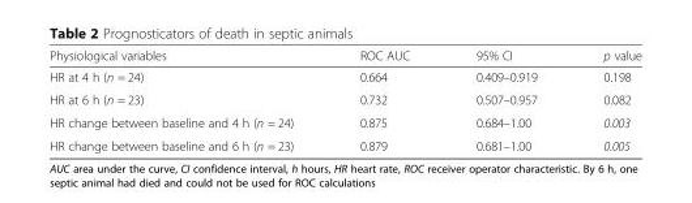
<table><thead><tr><td>Physiological variables</td><td>ROC AUC</td><td>95% CI</td><td>p value</td></tr></thead><tbody><tr><td>HR at 4 h (n = 24)</td><td>0.664</td><td>0.409–0.919</td><td>0.198</td></tr><tr><td>HR at 6 h (n = 23)</td><td>0.732</td><td>0.507–0.957</td><td>0.082</td></tr><tr><td>HR change between baseline and 4 h (n = 24)</td><td>0.875</td><td>0.684–1.00</td><td>0.003</td></tr><tr><td>HR change between baseline and 6 h (n = 23)</td><td>0.879</td><td>0.681–1.00</td><td>0.005</td></tr></tbody></table>